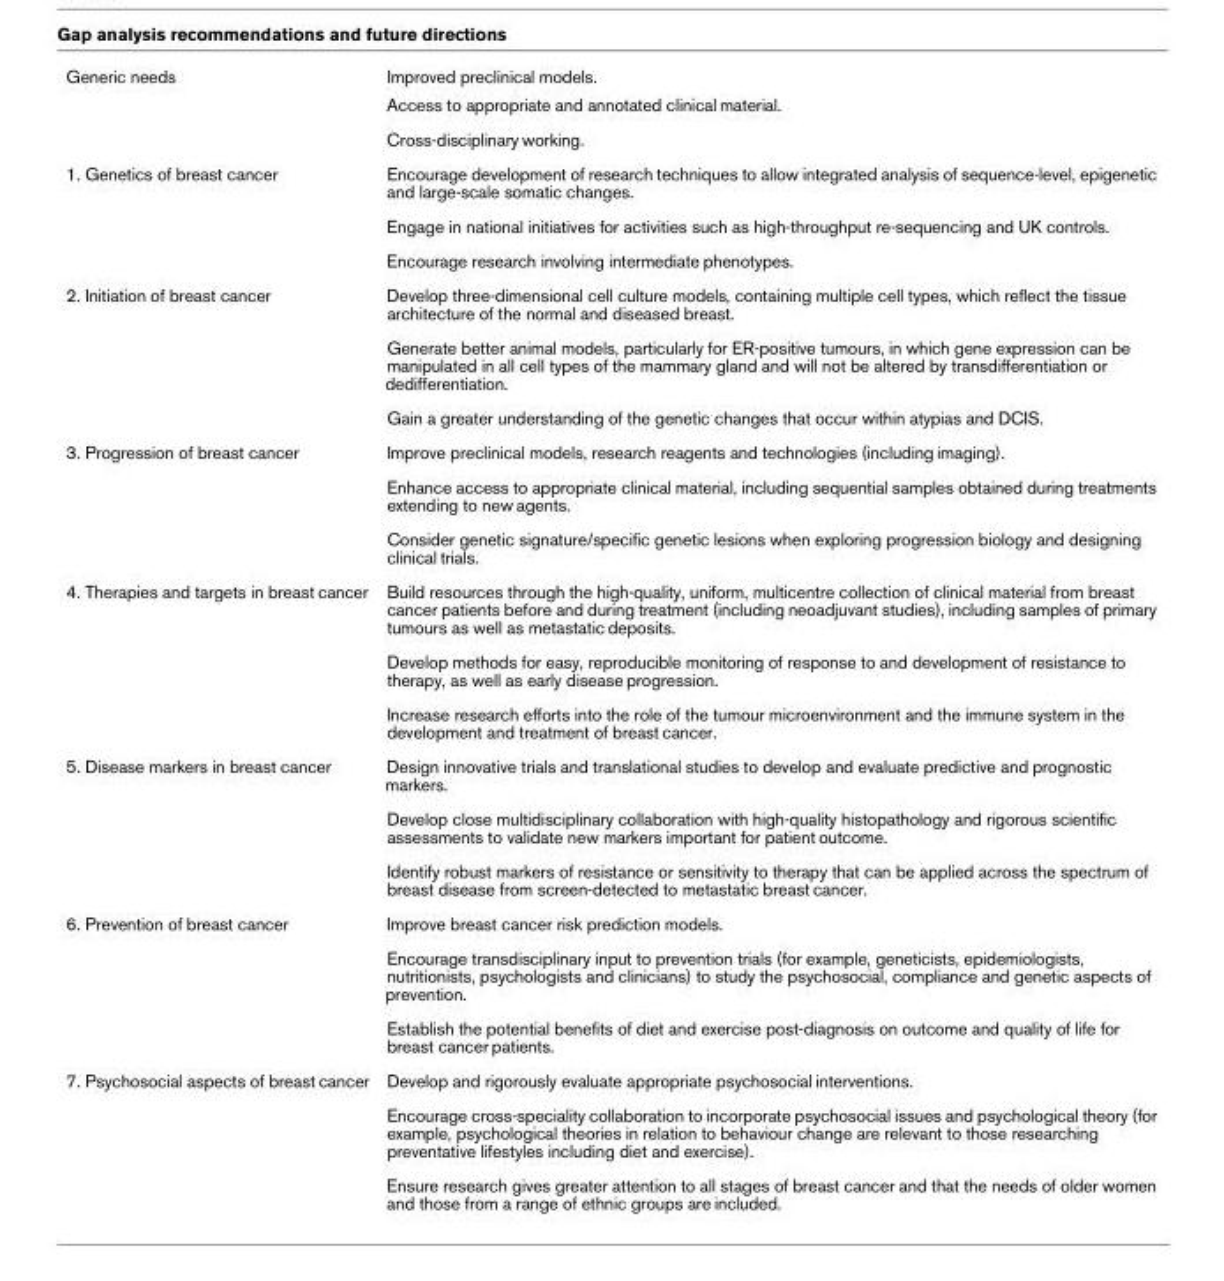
<table><tbody><tr><td rowspan="3">Generic needs</td><td>Improved preclinical models.</td></tr><tr><td>Access to appropriate and annotated clinical material.</td></tr><tr><td>Cross-disciplinary working.</td></tr><tr><td rowspan="3">1. Genetics of breast cancer</td><td>Encourage development of research techniques to allow integrated analysis of sequence-level, epigenetic and large-scale somatic changes.</td></tr><tr><td>Engage in national initiatives for activities such as high-throughput re-sequencing and UK controls.</td></tr><tr><td>Encourage research involving intermediate phenotypes.</td></tr><tr><td rowspan="3">2. Initiation of breast cancer</td><td>Develop three-dimensional cell culture models, containing multiple cell types, which reflect the tissue architecture of the normal and diseased breast.</td></tr><tr><td>Generate better animal models, particularly for ER-positive tumours, in which gene expression can be manipulated in all cell types of the mammary gland and will not be altered by transdifferentiation or dedifferentiation.</td></tr><tr><td>Gain a greater understanding of the genetic changes that occur within atypias and DCIS.</td></tr><tr><td rowspan="3">3. Progression of breast cancer</td><td>Improve preclinical models, research reagents and technologies (including imaging).</td></tr><tr><td>Enhance access to appropriate clinical material, including sequential samples obtained during treatments extending to new agents.</td></tr><tr><td>Consider genetic signature/specific genetic lesions when exploring progression biology and designing clinical trials.</td></tr><tr><td rowspan="3">4. Therapies and targets in breast cancer</td><td>Build resources through the high-quality, uniform, multicentre collection of clinical material from breast cancer patients before and during treatment (including neoadjuvant studies), including samples of primary tumours as well as metastatic deposits.</td></tr><tr><td>Develop methods for easy, reproducible monitoring of response to and development of resistance to therapy, as well as early disease progression.</td></tr><tr><td>Increase research efforts into the role of the tumour microenvironment and the immune system in the development and treatment of breast cancer.</td></tr><tr><td rowspan="3">5. Disease markers in breast cancer</td><td>Design innovative trials and translational studies to develop and evaluate predictive and prognostic markers.</td></tr><tr><td>Develop close multidisciplinary collaboration with high-quality histopathology and rigorous scientific assessments to validate new markers important for patient outcome.</td></tr><tr><td>Identify robust markers of resistance or sensitivity to therapy that can be applied across the spectrum of breast disease from screen-detected to metastatic breast cancer.</td></tr><tr><td rowspan="3">6. Prevention of breast cancer</td><td>Improve breast cancer risk prediction models.</td></tr><tr><td>Encourage transdisciplinary input to prevention trials (for example, geneticists, epidemiologists, nutritionists, psychologists and clinicians) to study the psychosocial, compliance and genetic aspects of prevention.</td></tr><tr><td>Establish the potential benefits of diet and exercise post-diagnosis on outcome and quality of life for breast cancer patients.</td></tr><tr><td rowspan="3">7. Psychosocial aspects of breast cancer</td><td>Develop and rigorously evaluate appropriate psychosocial interventions.</td></tr><tr><td>Encourage cross-speciality collaboration to incorporate psychosocial issues and psychological theory (for example, psychological theories in relation to behaviour change are relevant to those researching preventative lifestyles including diet and exercise).</td></tr><tr><td>Ensure research gives greater attention to all stages of breast cancer and that the needs of older women and those from a range of ethnic groups are included.</td></tr></tbody></table>